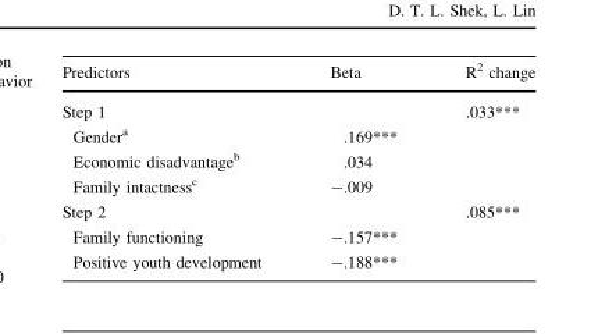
<table><thead><tr><td>Predictors</td><td>Beta</td><td>R<sup>2</sup> change</td></tr></thead><tbody><tr><td>Step 1</td><td></td><td>.033***</td></tr><tr><td>Gender<sup>a</sup></td><td>.169***</td><td></td></tr><tr><td>Economic disadvantage<sup>b</sup></td><td>.034</td><td></td></tr><tr><td>Family intactness<sup>c</sup></td><td>-.009</td><td></td></tr><tr><td>Step 2</td><td></td><td>.085***</td></tr><tr><td>Family functioning</td><td>-.157***</td><td></td></tr><tr><td>Positive youth development</td><td>-.188***</td><td></td></tr></tbody></table>